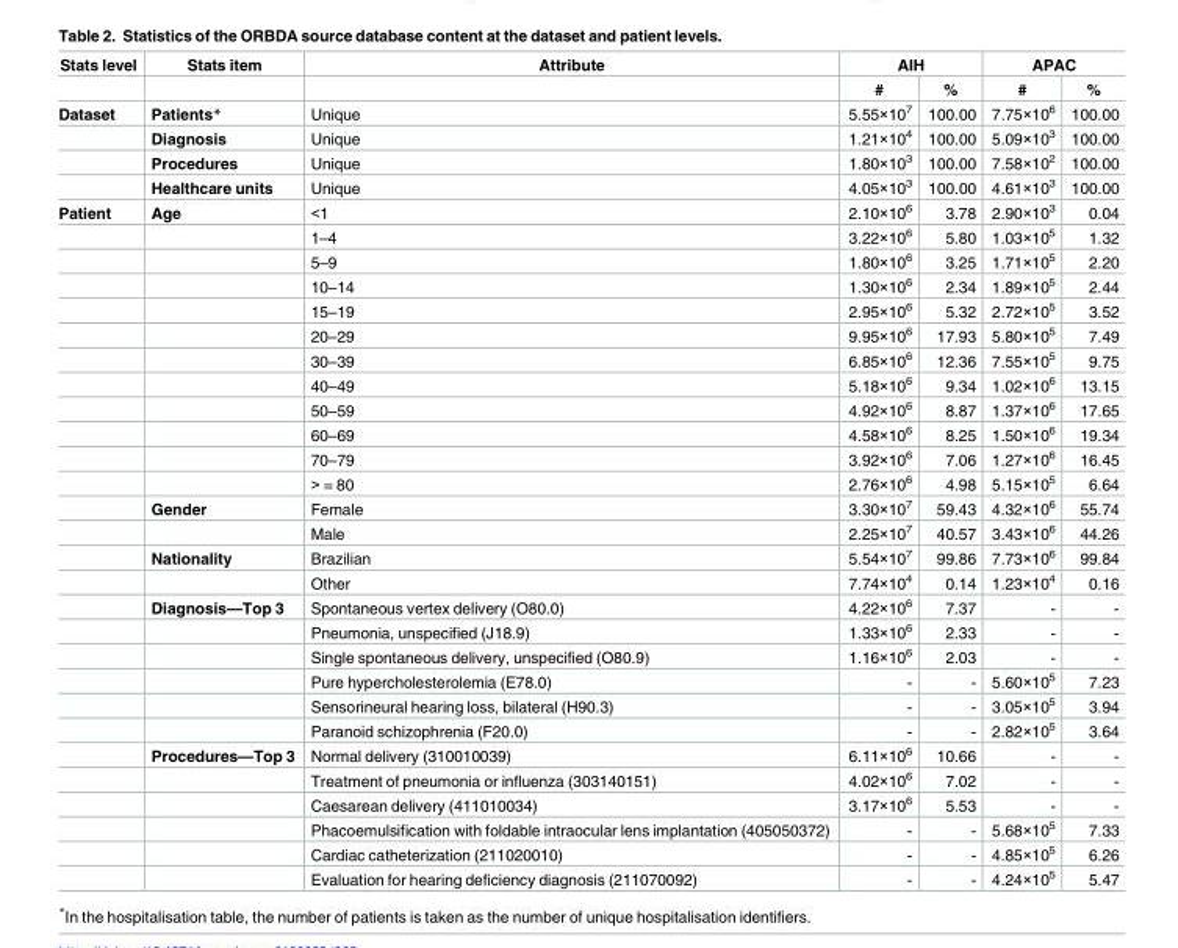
<table><thead><tr><td rowspan="2">Stats level</td><td rowspan="2">Stats item</td><td rowspan="2">Attribute</td><td colspan="2">AIH</td><td colspan="2">APAC</td></tr><tr><td>#</td><td>%</td><td>#</td><td>%</td></tr></thead><tbody><tr><td rowspan="4">Dataset</td><td>Patients*</td><td>Unique</td><td>5.55×10<sup>7</sup></td><td>100.00</td><td>7.75×10<sup>6</sup></td><td>100.00</td></tr><tr><td>Diagnosis</td><td>Unique</td><td>1.21×10<sup>4</sup></td><td>100.00</td><td>5.09×10<sup>3</sup></td><td>100.00</td></tr><tr><td>Procedures</td><td>Unique</td><td>1.80×10<sup>3</sup></td><td>100.00</td><td>7.58×10<sup>2</sup></td><td>100.00</td></tr><tr><td>Healthcare units</td><td>Unique</td><td>4.05×10<sup>3</sup></td><td>100.00</td><td>4.61×10<sup>3</sup></td><td>100.00</td></tr><tr><td rowspan="28">Patient</td><td>Age</td><td>&lt;1</td><td>2.10×10<sup>6</sup></td><td>3.78</td><td>2.90×10<sup>3</sup></td><td>0.04</td></tr><tr><td></td><td>1–4</td><td>3.22×10<sup>6</sup></td><td>5.80</td><td>1.03×10<sup>5</sup></td><td>1.32</td></tr><tr><td></td><td>5–9</td><td>1.80×10<sup>6</sup></td><td>3.25</td><td>1.71×10<sup>5</sup></td><td>2.20</td></tr><tr><td></td><td>10–14</td><td>1.30×10<sup>6</sup></td><td>2.34</td><td>1.89×10<sup>5</sup></td><td>2.44</td></tr><tr><td></td><td>15–19</td><td>2.95×10<sup>6</sup></td><td>5.32</td><td>2.72×10<sup>5</sup></td><td>3.52</td></tr><tr><td></td><td>20–29</td><td>9.95×10<sup>6</sup></td><td>17.93</td><td>5.80×10<sup>5</sup></td><td>7.49</td></tr><tr><td></td><td>30–39</td><td>6.85×10<sup>6</sup></td><td>12.36</td><td>7.55×10<sup>5</sup></td><td>9.75</td></tr><tr><td></td><td>40–49</td><td>5.18×10<sup>6</sup></td><td>9.34</td><td>1.02×10<sup>6</sup></td><td>13.15</td></tr><tr><td></td><td>50–59</td><td>4.92×10<sup>6</sup></td><td>8.87</td><td>1.37×10<sup>6</sup></td><td>17.65</td></tr><tr><td></td><td>60–69</td><td>4.58×10<sup>6</sup></td><td>8.25</td><td>1.50×10<sup>6</sup></td><td>19.34</td></tr><tr><td></td><td>70–79</td><td>3.92×10<sup>6</sup></td><td>7.06</td><td>1.27×10<sup>6</sup></td><td>16.45</td></tr><tr><td></td><td>&gt; = 80</td><td>2.76×10<sup>6</sup></td><td>4.98</td><td>5.15×10<sup>5</sup></td><td>6.64</td></tr><tr><td>Gender</td><td>Female</td><td>3.30×10<sup>7</sup></td><td>59.43</td><td>4.32×10<sup>6</sup></td><td>55.74</td></tr><tr><td></td><td>Male</td><td>2.25×10<sup>7</sup></td><td>40.57</td><td>3.43×10<sup>6</sup></td><td>44.26</td></tr><tr><td>Nationality</td><td>Brazilian</td><td>5.54×10<sup>7</sup></td><td>99.86</td><td>7.73×10<sup>6</sup></td><td>99.84</td></tr><tr><td></td><td>Other</td><td>7.74×10<sup>4</sup></td><td>0.14</td><td>1.23×10<sup>4</sup></td><td>0.16</td></tr><tr><td>Diagnosis—Top 3</td><td>Spontaneous vertex delivery (O80.0)</td><td>4.22×10<sup>6</sup></td><td>7.37</td><td>-</td><td>-</td></tr><tr><td></td><td>Pneumonia, unspecified (J18.9)</td><td>1.33×10<sup>6</sup></td><td>2.33</td><td>-</td><td>-</td></tr><tr><td></td><td>Single spontaneous delivery, unspecified (O80.9)</td><td>1.16×10<sup>6</sup></td><td>2.03</td><td>-</td><td>-</td></tr><tr><td></td><td>Pure hypercholesterolemia (E78.0)</td><td>-</td><td>-</td><td>5.60×10<sup>5</sup></td><td>7.23</td></tr><tr><td></td><td>Sensorineural hearing loss, bilateral (H90.3)</td><td>-</td><td>-</td><td>3.05×10<sup>5</sup></td><td>3.94</td></tr><tr><td></td><td>Paranoid schizophrenia (F20.0)</td><td>-</td><td>-</td><td>2.82×10<sup>5</sup></td><td>3.64</td></tr><tr><td>Procedures—Top 3</td><td>Normal delivery (310010039)</td><td>6.11×10<sup>6</sup></td><td>10.66</td><td>-</td><td>-</td></tr><tr><td></td><td>Treatment of pneumonia or influenza (303140151)</td><td>4.02×10<sup>6</sup></td><td>7.02</td><td>-</td><td>-</td></tr><tr><td></td><td>Caesarean delivery (411010034)</td><td>3.17×10<sup>6</sup></td><td>5.53</td><td>-</td><td>-</td></tr><tr><td></td><td>Phacoemulsification with foldable intraocular lens implantation (405050372)</td><td>-</td><td>-</td><td>5.68×10<sup>5</sup></td><td>7.33</td></tr><tr><td></td><td>Cardiac catheterization (211020010)</td><td>-</td><td>-</td><td>4.85×10<sup>5</sup></td><td>6.26</td></tr><tr><td></td><td>Evaluation for hearing deficiency diagnosis (211070092)</td><td>-</td><td>-</td><td>4.24×10<sup>5</sup></td><td>5.47</td></tr></tbody></table>